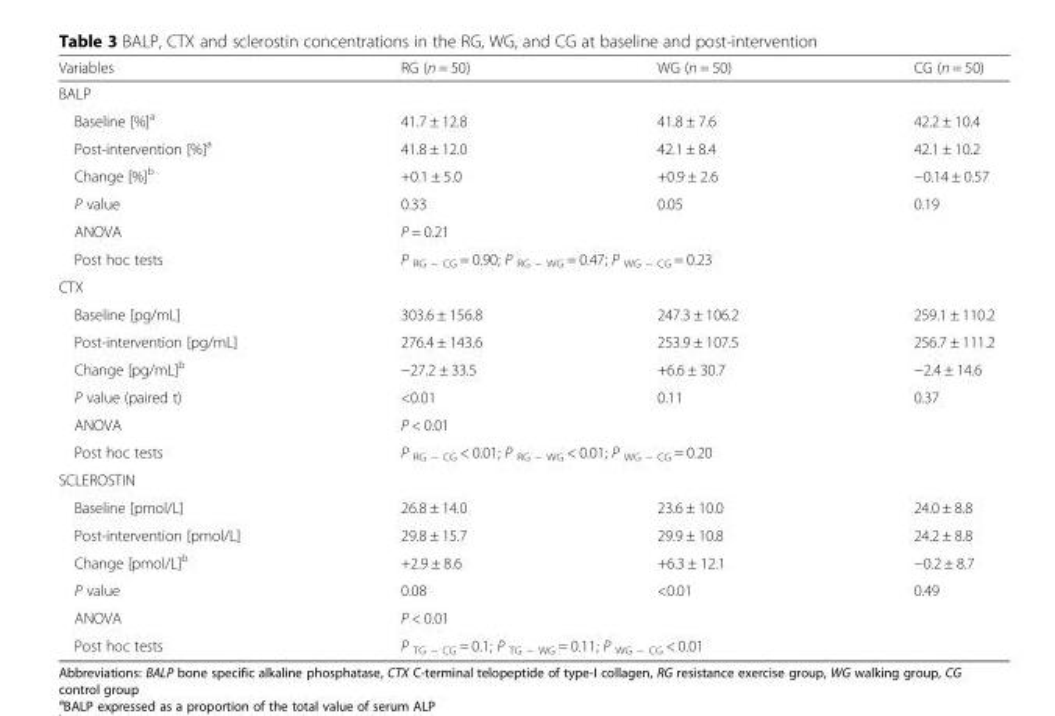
<table><thead><tr><td>Variables</td><td>RG (n = 50)</td><td>WG (n = 50)</td><td>CG (n = 50)</td></tr></thead><tbody><tr><td colspan="4">BALP</td></tr><tr><td>Baseline [%]<sup>a</sup></td><td>41.7 ± 12.8</td><td>41.8 ± 7.6</td><td>42.2 ± 10.4</td></tr><tr><td>Post-intervention [%]<sup>a</sup></td><td>41.8 ± 12.0</td><td>42.1 ± 8.4</td><td>42.1 ± 10.2</td></tr><tr><td>Change [%]<sup>b</sup></td><td>+0.1 ± 5.0</td><td>+0.9 ± 2.6</td><td>−0.14 ± 0.57</td></tr><tr><td>P value</td><td>0.33</td><td>0.05</td><td>0.19</td></tr><tr><td>ANOVA</td><td colspan="3">P = 0.21</td></tr><tr><td>Post hoc tests</td><td colspan="3">P <sub>RG − CG</sub> = 0.90; P <sub>RG − WG</sub> = 0.47; P <sub>WG − CG</sub> = 0.23</td></tr><tr><td colspan="4">CTX</td></tr><tr><td>Baseline [pg/mL]</td><td>303.6 ± 156.8</td><td>247.3 ± 106.2</td><td>259.1 ± 110.2</td></tr><tr><td>Post-intervention [pg/mL]</td><td>276.4 ± 143.6</td><td>253.9 ± 107.5</td><td>256.7 ± 111.2</td></tr><tr><td>Change [pg/mL]<sup>b</sup></td><td>−27.2 ± 33.5</td><td>+6.6 ± 30.7</td><td>−2.4 ± 14.6</td></tr><tr><td>P value (paired t)</td><td>&lt;0.01</td><td>0.11</td><td>0.37</td></tr><tr><td>ANOVA</td><td colspan="3">P &lt; 0.01</td></tr><tr><td>Post hoc tests</td><td colspan="3">P <sub>RG − CG</sub> &lt; 0.01; P <sub>RG − WG</sub> &lt; 0.01; P <sub>WG − CG</sub> = 0.20</td></tr><tr><td colspan="4">SCLEROSTIN</td></tr><tr><td>Baseline [pmol/L]</td><td>26.8 ± 14.0</td><td>23.6 ± 10.0</td><td>24.0 ± 8.8</td></tr><tr><td>Post-intervention [pmol/L]</td><td>29.8 ± 15.7</td><td>29.9 ± 10.8</td><td>24.2 ± 8.8</td></tr><tr><td>Change [pmol/L]<sup>b</sup></td><td>+2.9 ± 8.6</td><td>+6.3 ± 12.1</td><td>−0.2 ± 8.7</td></tr><tr><td>P value</td><td>0.08</td><td>&lt;0.01</td><td>0.49</td></tr><tr><td>ANOVA</td><td colspan="3">P &lt; 0.01</td></tr><tr><td>Post hoc tests</td><td colspan="3">P <sub>TG − CG</sub> = 0.1; P <sub>TG − WG</sub> = 0.11; P <sub>WG − CG</sub> &lt; 0.01</td></tr></tbody></table>